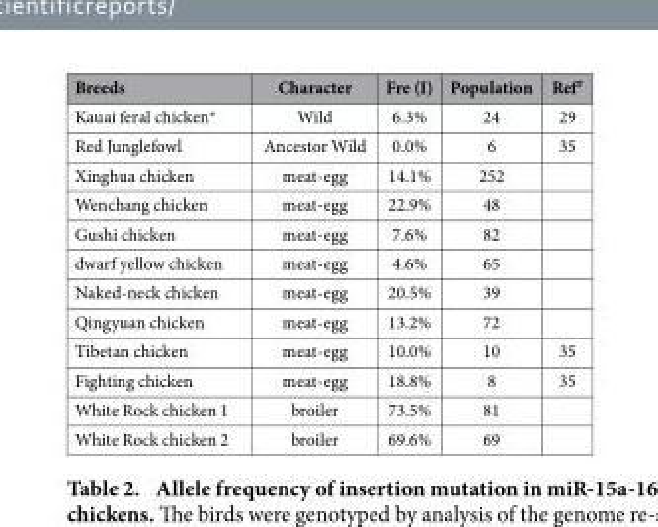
<table><thead><tr><td>Breeds</td><td>Character</td><td>Fre (I)</td><td>Population</td><td>Ref<sup>#</sup></td></tr></thead><tbody><tr><td>Kauai feral chicken*</td><td>Wild</td><td>6.3%</td><td>24</td><td>29</td></tr><tr><td>Red Junglefowl</td><td>Ancestor Wild</td><td>0.0%</td><td>6</td><td>35</td></tr><tr><td>Xinghua chicken</td><td>meat-egg</td><td>14.1%</td><td>252</td><td></td></tr><tr><td>Wenchang chicken</td><td>meat-egg</td><td>22.9%</td><td>48</td><td></td></tr><tr><td>Gushi chicken</td><td>meat-egg</td><td>7.6%</td><td>82</td><td></td></tr><tr><td>dwarf yellow chicken</td><td>meat-egg</td><td>4.6%</td><td>65</td><td></td></tr><tr><td>Naked-neck chicken</td><td>meat-egg</td><td>20.5%</td><td>39</td><td></td></tr><tr><td>Qingyuan chicken</td><td>meat-egg</td><td>13.2%</td><td>72</td><td></td></tr><tr><td>Tibetan chicken</td><td>meat-egg</td><td>10.0%</td><td>10</td><td>35</td></tr><tr><td>Fighting chicken</td><td>meat-egg</td><td>18.8%</td><td>8</td><td>35</td></tr><tr><td>White Rock chicken 1</td><td>broiler</td><td>73.5%</td><td>81</td><td></td></tr><tr><td>White Rock chicken 2</td><td>broiler</td><td>69.6%</td><td>69</td><td></td></tr></tbody></table>